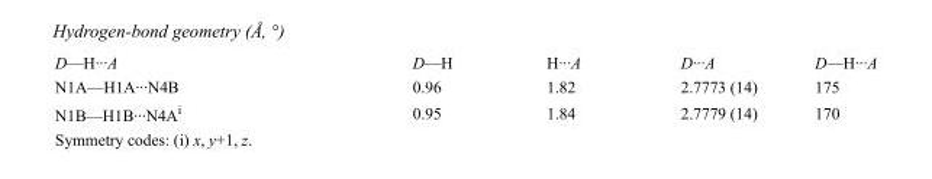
<table><tbody><tr><td>D—H···A</td><td>D—H</td><td>H···A</td><td>D···A</td><td>D—H···A</td></tr><tr><td>N1A—H1A···N4B</td><td>0.96</td><td>1.82</td><td>2.7773 (14)</td><td>175</td></tr><tr><td>N1B—H1B···N4A<sup>i</sup></td><td>0.95</td><td>1.84</td><td>2.7779 (14)</td><td>170</td></tr></tbody></table>